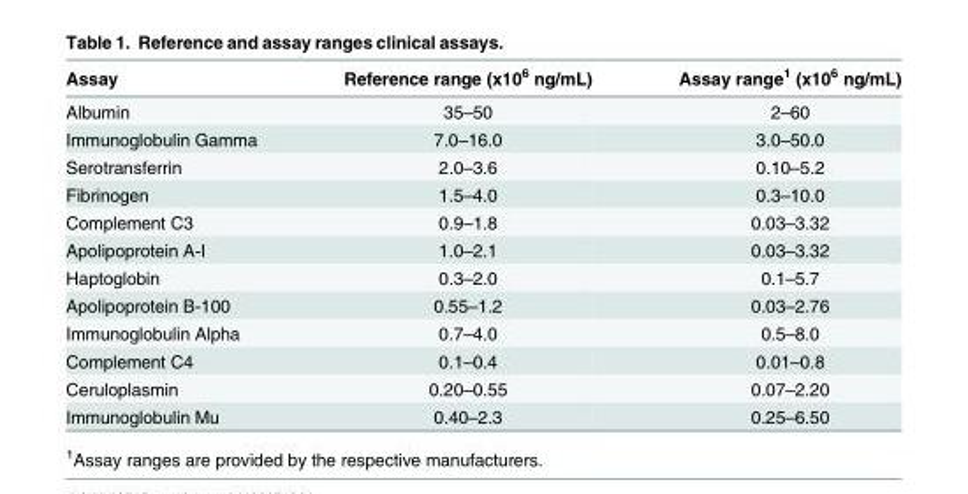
<table><thead><tr><td>Assay</td><td>Reference range (x10<sup>6</sup> ng/mL)</td><td>Assay range<sup>1</sup> (x10<sup>6</sup> ng/mL)</td></tr></thead><tbody><tr><td>Albumin</td><td>35–50</td><td>2–60</td></tr><tr><td>Immunoglobulin Gamma</td><td>7.0–16.0</td><td>3.0–50.0</td></tr><tr><td>Serotransferrin</td><td>2.0–3.6</td><td>0.10–5.2</td></tr><tr><td>Fibrinogen</td><td>1.5–4.0</td><td>0.3–10.0</td></tr><tr><td>Complement C3</td><td>0.9–1.8</td><td>0.03–3.32</td></tr><tr><td>Apolipoprotein A-I</td><td>1.0–2.1</td><td>0.03–3.32</td></tr><tr><td>Haptoglobin</td><td>0.3–2.0</td><td>0.1–5.7</td></tr><tr><td>Apolipoprotein B-100</td><td>0.55–1.2</td><td>0.03–2.76</td></tr><tr><td>Immunoglobulin Alpha</td><td>0.7–4.0</td><td>0.5–8.0</td></tr><tr><td>Complement C4</td><td>0.1–0.4</td><td>0.01–0.8</td></tr><tr><td>Ceruloplasmin</td><td>0.20–0.55</td><td>0.07–2.20</td></tr><tr><td>Immunoglobulin Mu</td><td>0.40–2.3</td><td>0.25–6.50</td></tr></tbody></table>